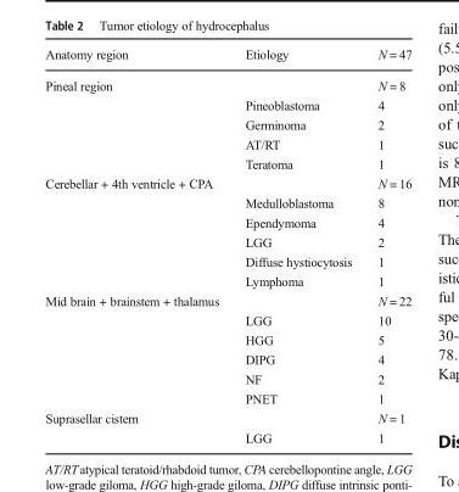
<table><thead><tr><td>Anatomy region</td><td>Etiology</td><td>N = 47</td></tr></thead><tbody><tr><td rowspan="5">Pineal region</td><td></td><td>N = 8</td></tr><tr><td>Pineoblastoma</td><td>4</td></tr><tr><td>Germinoma</td><td>2</td></tr><tr><td>AT/RT</td><td>1</td></tr><tr><td>Teratoma</td><td>1</td></tr><tr><td rowspan="6">Cerebellar + 4th ventricle + CPA</td><td></td><td>N = 16</td></tr><tr><td>Medulloblastoma</td><td>8</td></tr><tr><td>Ependymoma</td><td>4</td></tr><tr><td>LGG</td><td>2</td></tr><tr><td>Diffuse hystiocytosis</td><td>1</td></tr><tr><td>Lymphoma</td><td>1</td></tr><tr><td rowspan="6">Mid brain + brainstem + thalamus</td><td></td><td>N = 22</td></tr><tr><td>LGG</td><td>10</td></tr><tr><td>HGG</td><td>5</td></tr><tr><td>DIPG</td><td>4</td></tr><tr><td>NF</td><td>2</td></tr><tr><td>PNET</td><td>1</td></tr><tr><td rowspan="2">Suprasellar cistern</td><td></td><td>N = 1</td></tr><tr><td>LGG</td><td>1</td></tr></tbody></table>